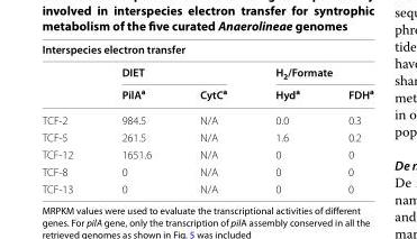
<table><thead><tr><td colspan="5">Interspecies electron transfer</td></tr><tr><td rowspan="2"></td><td colspan="2">DIET</td><td colspan="2">H<sub>2</sub>/Formate</td></tr><tr><td>PilA<sup>a</sup></td><td>CytC<sup>a</sup></td><td>Hyd<sup>a</sup></td><td>FDH<sup>a</sup></td></tr></thead><tbody><tr><td>TCF-2</td><td>984.5</td><td>N/A</td><td>0.0</td><td>0.3</td></tr><tr><td>TCF-5</td><td>261.5</td><td>N/A</td><td>1.6</td><td>0.2</td></tr><tr><td>TCF-12</td><td>1651.6</td><td>N/A</td><td>0</td><td>0</td></tr><tr><td>TCF-8</td><td>0</td><td>N/A</td><td>0</td><td>0</td></tr><tr><td>TCF-13</td><td>0</td><td>N/A</td><td>0</td><td>0</td></tr></tbody></table>